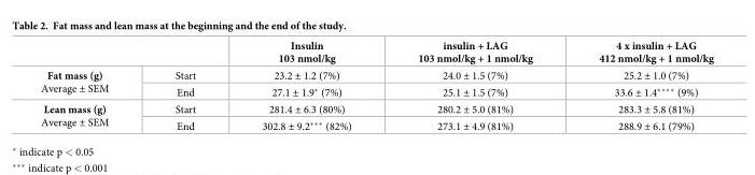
<table><thead><tr><td></td><td></td><td>Insulin 103 nmol/kg</td><td>insulin + LAG 103 nmol/kg + 1 nmol/kg</td><td>4 x insulin + LAG 412 nmol/kg + 1 nmol/kg</td></tr></thead><tbody><tr><td rowspan="2">Fat mass (g) Average ± SEM</td><td>Start</td><td>23.2 ± 1.2 (7%)</td><td>24.0 ± 1.5 (7%)</td><td>25.2 ± 1.0 (7%)</td></tr><tr><td>End</td><td>27.1 ± 1.9* (7%)</td><td>25.1 ± 1.5 (7%)</td><td>33.6 ± 1.4**** (9%)</td></tr><tr><td rowspan="2">Lean mass (g) Average ± SEM</td><td>Start</td><td>281.4 ± 6.3 (80%)</td><td>280.2 ± 5.0 (81%)</td><td>283.3 ± 5.8 (81%)</td></tr><tr><td>End</td><td>302.8 ± 9.2*** (82%)</td><td>273.1 ± 4.9 (81%)</td><td>288.9 ± 6.1 (79%)</td></tr></tbody></table>